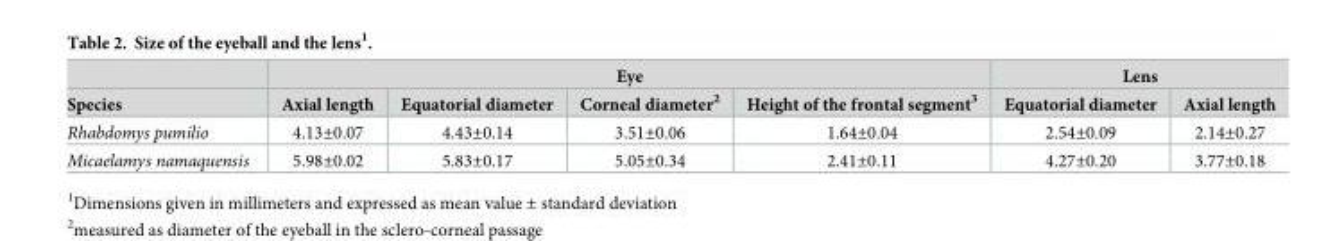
<table><thead><tr><td rowspan="2">Species</td><td colspan="4">Eye</td><td colspan="2">Lens</td></tr><tr><td>Axial length</td><td>Equatorial diameter</td><td>Corneal diameter<sup>2</sup></td><td>Height of the frontal segment<sup>3</sup></td><td>Equatorial diameter</td><td>Axial length</td></tr></thead><tbody><tr><td>Rhabdomys pumilio</td><td>4.13±0.07</td><td>4.43±0.14</td><td>3.51±0.06</td><td>1.64±0.04</td><td>2.54±0.09</td><td>2.14±0.27</td></tr><tr><td>Micaelamys namaquensis</td><td>5.98±0.02</td><td>5.83±0.17</td><td>5.05±0.34</td><td>2.41±0.11</td><td>4.27±0.20</td><td>3.77±0.18</td></tr></tbody></table>